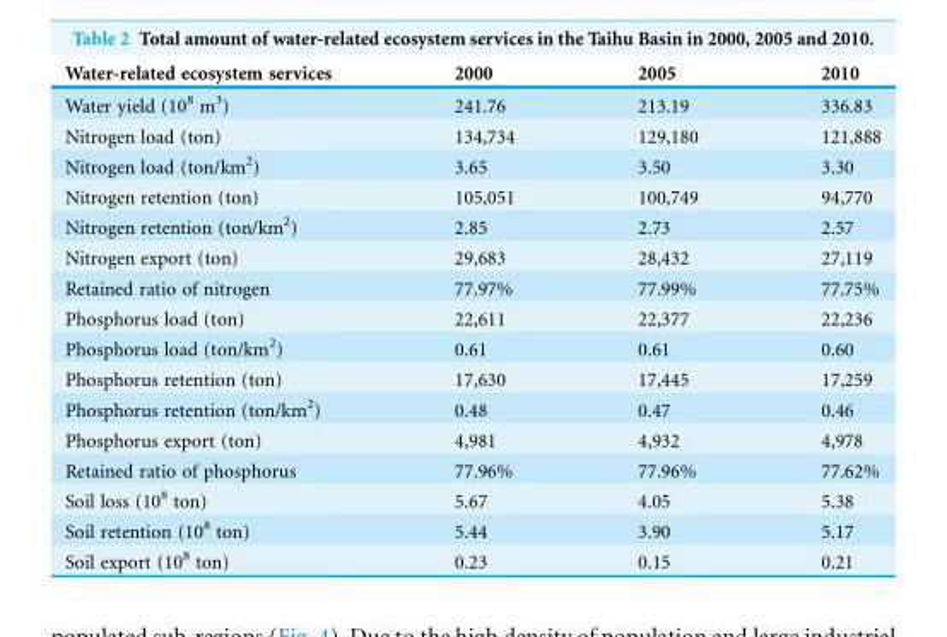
<table><thead><tr><td>Water-related ecosystem services</td><td>2000</td><td>2005</td><td>2010</td></tr></thead><tbody><tr><td>Water yield (10<sup>8</sup> m<sup>3</sup>)</td><td>241.76</td><td>213.19</td><td>336.83</td></tr><tr><td>Nitrogen load (ton)</td><td>134,734</td><td>129,180</td><td>121,888</td></tr><tr><td>Nitrogen load (ton/km<sup>2</sup>)</td><td>3.65</td><td>3.50</td><td>3.30</td></tr><tr><td>Nitrogen retention (ton)</td><td>105,051</td><td>100,749</td><td>94,770</td></tr><tr><td>Nitrogen retention (ton/km<sup>2</sup>)</td><td>2.85</td><td>2.73</td><td>2.57</td></tr><tr><td>Nitrogen export (ton)</td><td>29,683</td><td>28,432</td><td>27,119</td></tr><tr><td>Retained ratio of nitrogen</td><td>77.97%</td><td>77.99%</td><td>77.75%</td></tr><tr><td>Phosphorus load (ton)</td><td>22,611</td><td>22,377</td><td>22,236</td></tr><tr><td>Phosphorus load (ton/km<sup>2</sup>)</td><td>0.61</td><td>0.61</td><td>0.60</td></tr><tr><td>Phosphorus retention (ton)</td><td>17,630</td><td>17,445</td><td>17,259</td></tr><tr><td>Phosphorus retention (ton/km<sup>2</sup>)</td><td>0.48</td><td>0.47</td><td>0.46</td></tr><tr><td>Phosphorus export (ton)</td><td>4,981</td><td>4,932</td><td>4,978</td></tr><tr><td>Retained ratio of phosphorus</td><td>77.96%</td><td>77.96%</td><td>77.62%</td></tr><tr><td>Soil loss (10<sup>8</sup> ton)</td><td>5.67</td><td>4.05</td><td>5.38</td></tr><tr><td>Soil retention (10<sup>8</sup> ton)</td><td>5.44</td><td>3.90</td><td>5.17</td></tr><tr><td>Soil export (10<sup>8</sup> ton)</td><td>0.23</td><td>0.15</td><td>0.21</td></tr></tbody></table>